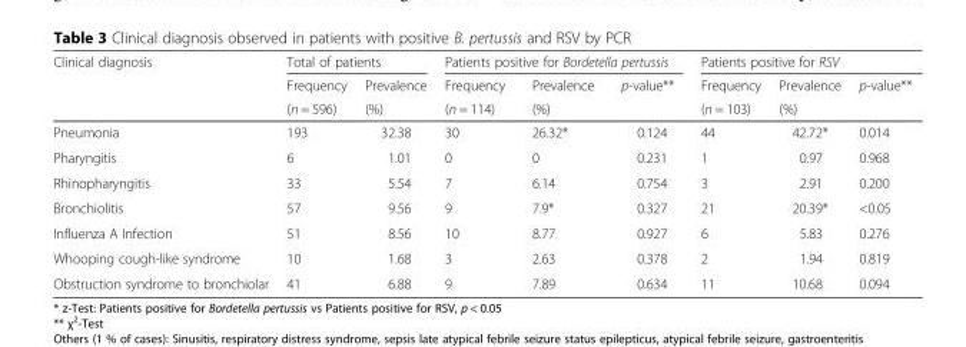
<table><thead><tr><td rowspan="3">Clinical diagnosis</td><td colspan="2">Total of patients</td><td colspan="3">Patients positive for Bordetella pertussis</td><td colspan="3">Patients positive for RSV</td></tr><tr><td rowspan="2">Frequency (n = 596)</td><td rowspan="2">Prevalence (%)</td><td rowspan="2">Frequency (n = 114)</td><td rowspan="2">Prevalence (%)</td><td rowspan="2">p-value**</td><td rowspan="2">Frequency (n = 103)</td><td rowspan="2">Prevalence (%)</td><td rowspan="2">p-value**</td></tr><tr></tr></thead><tbody><tr><td>Pneumonia</td><td>193</td><td>32.38</td><td>30</td><td>26.32*</td><td>0.124</td><td>44</td><td>42.72*</td><td>0.014</td></tr><tr><td>Pharyngitis</td><td>6</td><td>1.01</td><td>0</td><td>0</td><td>0.231</td><td>1</td><td>0.97</td><td>0.968</td></tr><tr><td>Rhinopharyngitis</td><td>33</td><td>5.54</td><td>7</td><td>6.14</td><td>0.754</td><td>3</td><td>2.91</td><td>0.200</td></tr><tr><td>Bronchiolitis</td><td>57</td><td>9.56</td><td>9</td><td>7.9*</td><td>0.327</td><td>21</td><td>20.39*</td><td>&lt;0.05</td></tr><tr><td>Influenza A Infection</td><td>51</td><td>8.56</td><td>10</td><td>8.77</td><td>0.927</td><td>6</td><td>5.83</td><td>0.276</td></tr><tr><td>Whooping cough-like syndrome</td><td>10</td><td>1.68</td><td>3</td><td>2.63</td><td>0.378</td><td>2</td><td>1.94</td><td>0.819</td></tr><tr><td>Obstruction syndrome to bronchiolar</td><td>41</td><td>6.88</td><td>9</td><td>7.89</td><td>0.634</td><td>11</td><td>10.68</td><td>0.094</td></tr></tbody></table>